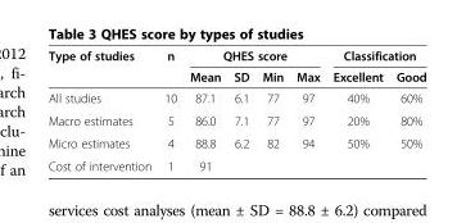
<table><thead><tr><td rowspan="2">Type of studies</td><td rowspan="2">n</td><td colspan="4">QHES score</td><td colspan="2">Classification</td></tr><tr><td>Mean</td><td>SD</td><td>Min</td><td>Max</td><td>Excellent</td><td>Good</td></tr></thead><tbody><tr><td>All studies</td><td>10</td><td>87.1</td><td>6.1</td><td>77</td><td>97</td><td>40%</td><td>60%</td></tr><tr><td>Macro estimates</td><td>5</td><td>86.0</td><td>7.1</td><td>77</td><td>97</td><td>20%</td><td>80%</td></tr><tr><td>Micro estimates</td><td>4</td><td>88.8</td><td>6.2</td><td>82</td><td>94</td><td>50%</td><td>50%</td></tr><tr><td>Cost of intervention</td><td>1</td><td>91</td><td></td><td></td><td></td><td></td><td></td></tr></tbody></table>